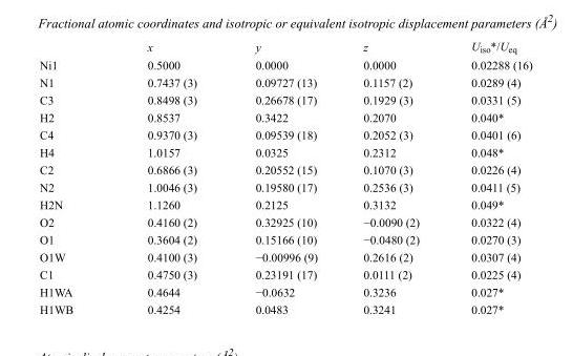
<table><thead><tr><td></td><td>x</td><td>y</td><td>z</td><td>U<sub>iso</sub>*/U<sub>eq</sub></td></tr></thead><tbody><tr><td>Ni1</td><td>0.5000</td><td>0.0000</td><td>0.0000</td><td>0.02288 (16)</td></tr><tr><td>N1</td><td>0.7437 (3)</td><td>0.09727 (13)</td><td>0.1157 (2)</td><td>0.0289 (4)</td></tr><tr><td>C3</td><td>0.8498 (3)</td><td>0.26678 (17)</td><td>0.1929 (3)</td><td>0.0331 (5)</td></tr><tr><td>H2</td><td>0.8537</td><td>0.3422</td><td>0.2070</td><td>0.040*</td></tr><tr><td>C4</td><td>0.9370 (3)</td><td>0.09539 (18)</td><td>0.2052 (3)</td><td>0.0401 (6)</td></tr><tr><td>H4</td><td>1.0157</td><td>0.0325</td><td>0.2312</td><td>0.048*</td></tr><tr><td>C2</td><td>0.6866 (3)</td><td>0.20552 (15)</td><td>0.1070 (3)</td><td>0.0226 (4)</td></tr><tr><td>N2</td><td>1.0046 (3)</td><td>0.19580 (17)</td><td>0.2536 (3)</td><td>0.0411 (5)</td></tr><tr><td>H2N</td><td>1.1260</td><td>0.2125</td><td>0.3132</td><td>0.049*</td></tr><tr><td>O2</td><td>0.4160 (2)</td><td>0.32925 (10)</td><td>−0.0090 (2)</td><td>0.0322 (4)</td></tr><tr><td>O1</td><td>0.3604 (2)</td><td>0.15166 (10)</td><td>−0.0480 (2)</td><td>0.0270 (3)</td></tr><tr><td>O1W</td><td>0.4100 (3)</td><td>−0.00996 (9)</td><td>0.2616 (2)</td><td>0.0307 (4)</td></tr><tr><td>C1</td><td>0.4750 (3)</td><td>0.23191 (17)</td><td>0.0111 (2)</td><td>0.0225 (4)</td></tr><tr><td>H1WA</td><td>0.4644</td><td>−0.0632</td><td>0.3236</td><td>0.027*</td></tr><tr><td>H1WB</td><td>0.4254</td><td>0.0483</td><td>0.3241</td><td>0.027*</td></tr></tbody></table>